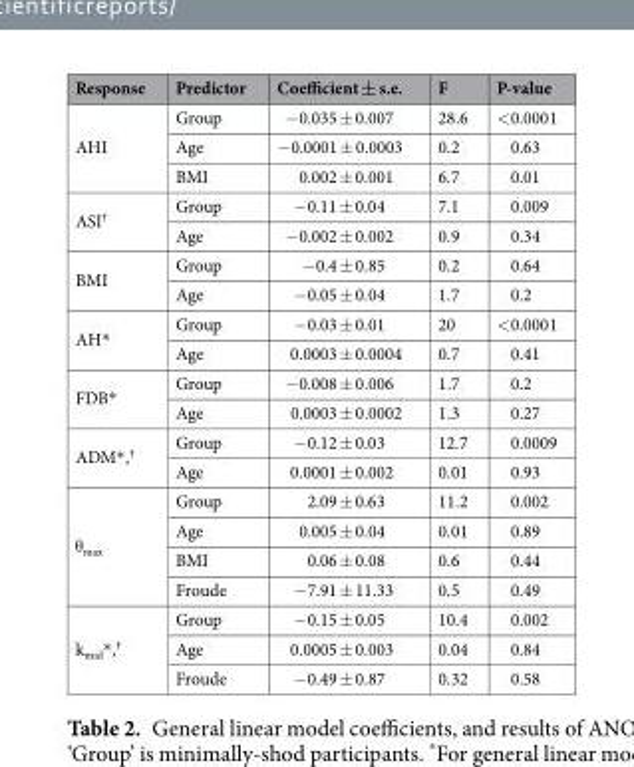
<table><thead><tr><td>Response</td><td>Predictor</td><td>Coefficient ± s.e.</td><td>F</td><td>P-value</td></tr></thead><tbody><tr><td rowspan="3">AHI</td><td>Group</td><td>−0.035 ± 0.007</td><td>28.6</td><td>&lt;0.0001</td></tr><tr><td>Age</td><td>−0.0001 ± 0.0003</td><td>0.2</td><td>0.63</td></tr><tr><td>BMI</td><td>0.002 ± 0.001</td><td>6.7</td><td>0.01</td></tr><tr><td rowspan="2">ASI<sup>†</sup></td><td>Group</td><td>−0.11 ± 0.04</td><td>7.1</td><td>0.009</td></tr><tr><td>Age</td><td>−0.002 ± 0.002</td><td>0.9</td><td>0.34</td></tr><tr><td rowspan="2">BMI</td><td>Group</td><td>−0.4 ± 0.85</td><td>0.2</td><td>0.64</td></tr><tr><td>Age</td><td>−0.05 ± 0.04</td><td>1.7</td><td>0.2</td></tr><tr><td rowspan="2">AH*</td><td>Group</td><td>−0.03 ± 0.01</td><td>20</td><td>&lt;0.0001</td></tr><tr><td>Age</td><td>0.0003 ± 0.0004</td><td>0.7</td><td>0.41</td></tr><tr><td rowspan="2">FDB*</td><td>Group</td><td>−0.008 ± 0.006</td><td>1.7</td><td>0.2</td></tr><tr><td>Age</td><td>0.0003 ± 0.0002</td><td>1.3</td><td>0.27</td></tr><tr><td rowspan="2">ADM*,<sup>†</sup></td><td>Group</td><td>−0.12 ± 0.03</td><td>12.7</td><td>0.0009</td></tr><tr><td>Age</td><td>0.0001 ± 0.002</td><td>0.01</td><td>0.93</td></tr><tr><td rowspan="4">θ<sub>max</sub></td><td>Group</td><td>2.09 ± 0.63</td><td>11.2</td><td>0.002</td></tr><tr><td>Age</td><td>0.005 ± 0.04</td><td>0.01</td><td>0.89</td></tr><tr><td>BMI</td><td>0.06 ± 0.08</td><td>0.6</td><td>0.44</td></tr><tr><td>Froude</td><td>−7.91 ± 11.33</td><td>0.5</td><td>0.49</td></tr><tr><td rowspan="3">k<sub>mid</sub>*,<sup>†</sup></td><td>Group</td><td>−0.15 ± 0.05</td><td>10.4</td><td>0.002</td></tr><tr><td>Age</td><td>0.0005 ± 0.003</td><td>0.04</td><td>0.84</td></tr><tr><td>Froude</td><td>−0.49 ± 0.87</td><td>0.32</td><td>0.58</td></tr></tbody></table>